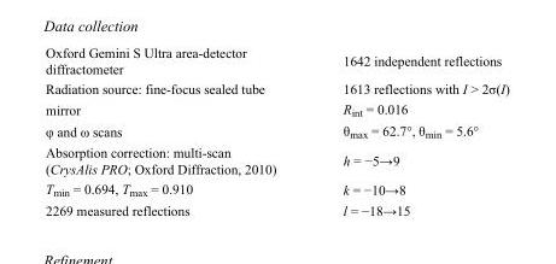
<table><tbody><tr><td>Oxford Gemini S Ultra area-detector diffractometer</td><td>1642 independent reflections</td></tr><tr><td>Radiation source: fine-focus sealed tube</td><td>1613 reflections with I &gt; 2σ(I)</td></tr><tr><td>mirror</td><td>R<sub>int</sub> = 0.016</td></tr><tr><td>φ and ω scans</td><td>θ<sub>max</sub> = 62.7°, θ<sub>min</sub> = 5.6°</td></tr><tr><td>Absorption correction: multi-scan (CrysAlis PRO; Oxford Diffraction, 2010)</td><td>h = −5→9</td></tr><tr><td>T<sub>min</sub> = 0.694, T<sub>max</sub> = 0.910</td><td>k = −10→8</td></tr><tr><td>2269 measured reflections</td><td>l = −18→15</td></tr></tbody></table>